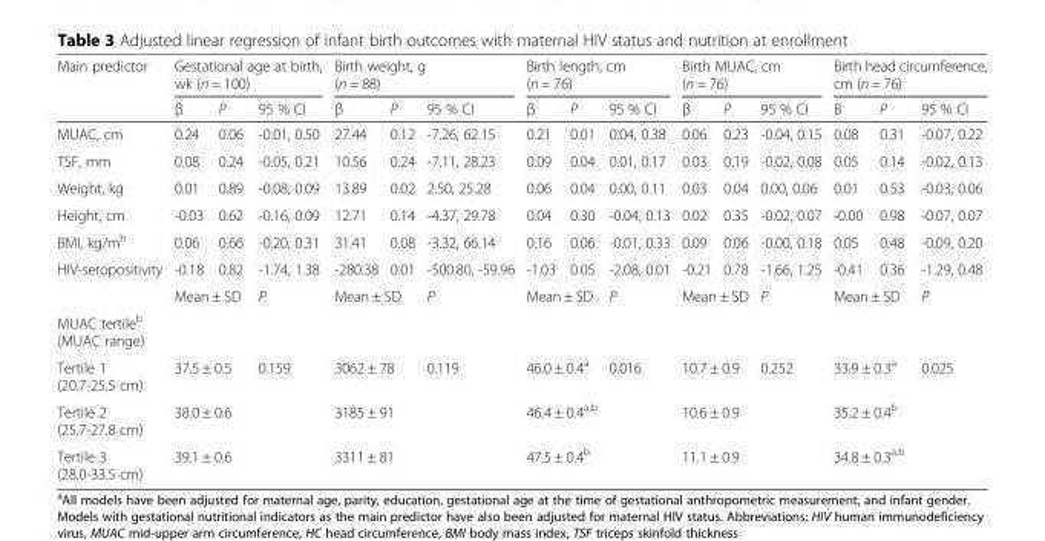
<table><thead><tr><td rowspan="2">Main predictor</td><td colspan="3">Gestational age at birth, wk (n = 100)</td><td colspan="3">Birth weight, g (n = 88)</td><td colspan="3">Birth length, cm (n = 76)</td><td colspan="3">Birth MUAC, cm (n = 76)</td><td colspan="3">Birth head circumference, cm (n = 76)</td></tr><tr><td>β</td><td>P</td><td>95 % CI</td><td>β</td><td>P</td><td>95 % CI</td><td>β</td><td>P</td><td>95 % CI</td><td>β</td><td>P</td><td>95 % CI</td><td>Β</td><td>P</td><td>95 % CI</td></tr></thead><tbody><tr><td>MUAC, cm</td><td>0.24</td><td>0.06</td><td>-0.01, 0.50</td><td>27.44</td><td>0.12</td><td>-7.26, 62.15</td><td>0.21</td><td>0.01</td><td>0.04, 0.38</td><td>0.06</td><td>0.23</td><td>-0.04, 0.15</td><td>0.08</td><td>0.31</td><td>-0.07, 0.22</td></tr><tr><td>TSF, mm</td><td>0.08</td><td>0.24</td><td>-0.05, 0.21</td><td>10.56</td><td>0.24</td><td>-7.11, 28.23</td><td>0.09</td><td>0.04</td><td>0.01, 0.17</td><td>0.03</td><td>0.19</td><td>-0.02, 0.08</td><td>0.05</td><td>0.14</td><td>-0.02, 0.13</td></tr><tr><td>Weight, kg</td><td>0.01</td><td>0.89</td><td>-0.08, 0.09</td><td>13.89</td><td>0.02</td><td>2.50, 25.28</td><td>0.06</td><td>0.04</td><td>0.00, 0.11</td><td>0.03</td><td>0.04</td><td>0.00, 0.06</td><td>0.01</td><td>0.53</td><td>-0.03, 0.06</td></tr><tr><td>Height, cm</td><td>-0.03</td><td>0.62</td><td>-0.16, 0.09</td><td>12.71</td><td>0.14</td><td>-4.37, 29.78</td><td>0.04</td><td>0.30</td><td>-0.04, 0.13</td><td>0.02</td><td>0.35</td><td>-0.02, 0.07</td><td>-0.00</td><td>0.98</td><td>-0.07, 0.07</td></tr><tr><td>BMI, kg/m<sup>b</sup></td><td>0.06</td><td>0.66</td><td>-0.20, 0.31</td><td>31.41</td><td>0.08</td><td>-3.32, 66.14</td><td>0.16</td><td>0.06</td><td>-0.01, 0.33</td><td>0.09</td><td>0.06</td><td>-0.00, 0.18</td><td>0.05</td><td>0.48</td><td>-0.09, 0.20</td></tr><tr><td rowspan="2">HIV-seropositivity</td><td>-0.18</td><td>0.82</td><td>-1.74, 1.38</td><td>-280.38</td><td>0.01</td><td>-500.80, -59.96</td><td>-1.03</td><td>0.05</td><td>-2.08, 0.01</td><td>-0.21</td><td>0.78</td><td>-1.66, 1.25</td><td>-0.41</td><td>0.36</td><td>-1.29, 0.48</td></tr><tr><td colspan="2">Mean ± SD</td><td>P</td><td colspan="2">Mean ± SD</td><td>P</td><td colspan="2">Mean ± SD</td><td>P</td><td colspan="2">Mean ± SD</td><td>P</td><td colspan="2">Mean ± SD</td><td>P</td></tr><tr><td colspan="16">MUAC tertile<sup>b</sup> (MUAC range)</td></tr><tr><td>Tertile 1 (20.7-25.5 cm)</td><td colspan="2">37.5 ± 0.5</td><td>0.159</td><td colspan="2">3062 ± 78</td><td>0.119</td><td colspan="2">46.0 ± 0.4<sup>a</sup></td><td>0.016</td><td colspan="2">10.7 ± 0.9</td><td>0.252</td><td colspan="2">33.9 ± 0.3<sup>a</sup></td><td>0.025</td></tr><tr><td>Tertile 2 (25.7-27.8 cm)</td><td colspan="2">38.0 ± 0.6</td><td></td><td colspan="2">3185 ± 91</td><td></td><td colspan="2">46.4 ± 0.4<sup>a,b</sup></td><td></td><td colspan="2">10.6 ± 0.9</td><td></td><td colspan="2">35.2 ± 0.4<sup>b</sup></td><td></td></tr><tr><td>Tertile 3 (28.0-33.5 cm)</td><td colspan="2">39.1 ± 0.6</td><td></td><td colspan="2">3311 ± 81</td><td></td><td colspan="2">47.5 ± 0.4<sup>b</sup></td><td></td><td colspan="2">11.1 ± 0.9</td><td></td><td colspan="2">34.8 ± 0.3<sup>a,b</sup></td><td></td></tr></tbody></table>